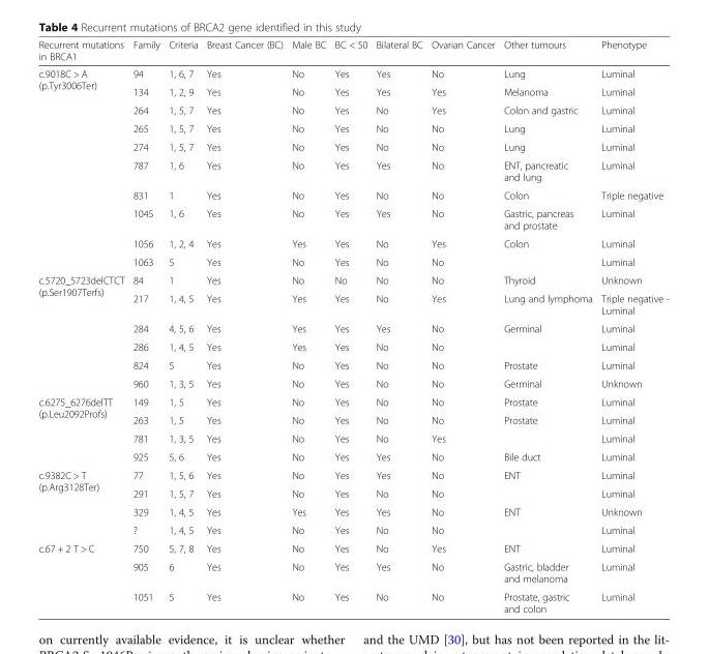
<table><thead><tr><td>Recurrent mutations in BRCA1</td><td>Family</td><td>Criteria</td><td>Breast Cancer (BC)</td><td>Male BC</td><td>BC &lt; 50</td><td>Bilateral BC</td><td>Ovarian Cancer</td><td>Other tumours</td><td>Phenotype</td></tr></thead><tbody><tr><td rowspan="10">c.9018C &gt; A (p.Tyr3006Ter)</td><td>94</td><td>1, 6, 7</td><td>Yes</td><td>No</td><td>Yes</td><td>Yes</td><td>No</td><td>Lung</td><td>Luminal</td></tr><tr><td>134</td><td>1, 2, 9</td><td>Yes</td><td>No</td><td>Yes</td><td>Yes</td><td>Yes</td><td>Melanoma</td><td>Luminal</td></tr><tr><td>264</td><td>1, 5, 7</td><td>Yes</td><td>No</td><td>Yes</td><td>No</td><td>Yes</td><td>Colon and gastric</td><td>Luminal</td></tr><tr><td>265</td><td>1, 5, 7</td><td>Yes</td><td>No</td><td>Yes</td><td>No</td><td>No</td><td>Lung</td><td>Luminal</td></tr><tr><td>274</td><td>1, 5, 7</td><td>Yes</td><td>No</td><td>Yes</td><td>No</td><td>No</td><td>Lung</td><td>Luminal</td></tr><tr><td>787</td><td>1, 6</td><td>Yes</td><td>No</td><td>Yes</td><td>Yes</td><td>No</td><td>ENT, pancreatic and lung</td><td>Luminal</td></tr><tr><td>831</td><td>1</td><td>Yes</td><td>No</td><td>Yes</td><td>No</td><td>No</td><td>Colon</td><td>Triple negative</td></tr><tr><td>1045</td><td>1, 6</td><td>Yes</td><td>No</td><td>Yes</td><td>Yes</td><td>No</td><td>Gastric, pancreas and prostate</td><td>Luminal</td></tr><tr><td>1056</td><td>1, 2, 4</td><td>Yes</td><td>Yes</td><td>Yes</td><td>No</td><td>Yes</td><td>Colon</td><td>Luminal</td></tr><tr><td>1063</td><td>5</td><td>Yes</td><td>No</td><td>Yes</td><td>No</td><td>No</td><td></td><td>Luminal</td></tr><tr><td rowspan="6">c.5720_5723delCTCT (p.Ser1907Terfs)</td><td>84</td><td>1</td><td>Yes</td><td>No</td><td>No</td><td>No</td><td>No</td><td>Thyroid</td><td>Unknown</td></tr><tr><td>217</td><td>1, 4, 5</td><td>Yes</td><td>Yes</td><td>Yes</td><td>No</td><td>Yes</td><td>Lung and lymphoma</td><td>Triple negative - Luminal</td></tr><tr><td>284</td><td>4, 5, 6</td><td>Yes</td><td>Yes</td><td>Yes</td><td>Yes</td><td>No</td><td>Germinal</td><td>Luminal</td></tr><tr><td>286</td><td>1, 4, 5</td><td>Yes</td><td>Yes</td><td>Yes</td><td>No</td><td>No</td><td></td><td>Luminal</td></tr><tr><td>824</td><td>5</td><td>Yes</td><td>No</td><td>Yes</td><td>No</td><td>No</td><td>Prostate</td><td>Luminal</td></tr><tr><td>960</td><td>1, 3, 5</td><td>Yes</td><td>No</td><td>Yes</td><td>No</td><td>No</td><td>Germinal</td><td>Unknown</td></tr><tr><td rowspan="4">c.6275_6276delTT (p.Leu2092Profs)</td><td>149</td><td>1, 5</td><td>Yes</td><td>No</td><td>Yes</td><td>No</td><td>No</td><td>Prostate</td><td>Luminal</td></tr><tr><td>263</td><td>1, 5</td><td>Yes</td><td>No</td><td>Yes</td><td>No</td><td>No</td><td>Prostate</td><td>Luminal</td></tr><tr><td>781</td><td>1, 3, 5</td><td>Yes</td><td>No</td><td>Yes</td><td>No</td><td>Yes</td><td></td><td>Luminal</td></tr><tr><td>925</td><td>5, 6</td><td>Yes</td><td>No</td><td>Yes</td><td>Yes</td><td>No</td><td>Bile duct</td><td>Luminal</td></tr><tr><td rowspan="4">c.9382C &gt; T (p.Arg3128Ter)</td><td>77</td><td>1, 5, 6</td><td>Yes</td><td>No</td><td>Yes</td><td>Yes</td><td>No</td><td>ENT</td><td>Luminal</td></tr><tr><td>291</td><td>1, 5, 7</td><td>Yes</td><td>No</td><td>Yes</td><td>No</td><td>No</td><td></td><td>Luminal</td></tr><tr><td>329</td><td>1, 4, 5</td><td>Yes</td><td>Yes</td><td>Yes</td><td>Yes</td><td>No</td><td>ENT</td><td>Unknown</td></tr><tr><td>?</td><td>1, 4, 5</td><td>Yes</td><td>No</td><td>Yes</td><td>No</td><td>No</td><td></td><td>Luminal</td></tr><tr><td rowspan="3">c.67 + 2 T &gt; C</td><td>750</td><td>5, 7, 8</td><td>Yes</td><td>No</td><td>Yes</td><td>No</td><td>Yes</td><td>ENT</td><td>Luminal</td></tr><tr><td>905</td><td>6</td><td>Yes</td><td>No</td><td>Yes</td><td>Yes</td><td>No</td><td>Gastric, bladder and melanoma</td><td>Luminal</td></tr><tr><td>1051</td><td>5</td><td>Yes</td><td>No</td><td>Yes</td><td>No</td><td>No</td><td>Prostate, gastric and colon</td><td>Luminal</td></tr></tbody></table>